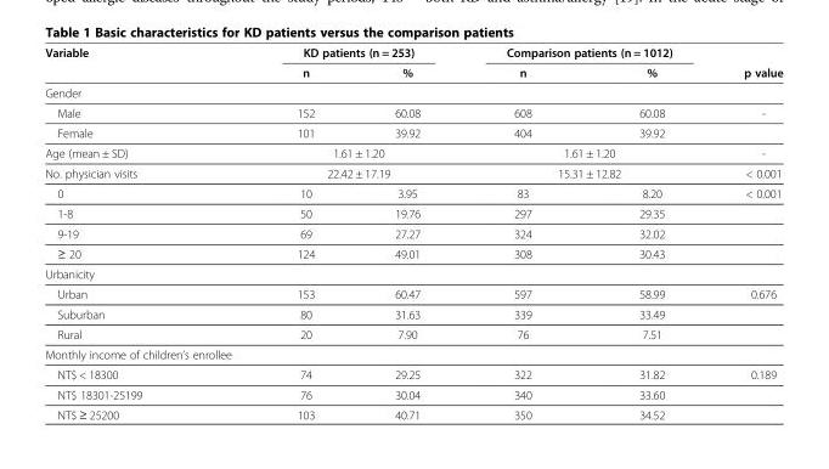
<table><thead><tr><td rowspan="2">Variable</td><td colspan="2">KD patients (n = 253)</td><td colspan="2">Comparison patients (n = 1012)</td><td rowspan="2">p value</td></tr><tr><td>n</td><td>%</td><td>n</td><td>%</td></tr></thead><tbody><tr><td colspan="6">Gender</td></tr><tr><td>Male</td><td>152</td><td>60.08</td><td>608</td><td>60.08</td><td>-</td></tr><tr><td>Female</td><td>101</td><td>39.92</td><td>404</td><td>39.92</td><td></td></tr><tr><td>Age (mean ± SD)</td><td colspan="2">1.61 ± 1.20</td><td colspan="2">1.61 ± 1.20</td><td>-</td></tr><tr><td>No. physician visits</td><td colspan="2">22.42 ± 17.19</td><td colspan="2">15.31 ± 12.82</td><td>&lt; 0.001</td></tr><tr><td>0</td><td>10</td><td>3.95</td><td>83</td><td>8.20</td><td>&lt; 0.001</td></tr><tr><td>1-8</td><td>50</td><td>19.76</td><td>297</td><td>29.35</td><td></td></tr><tr><td>9-19</td><td>69</td><td>27.27</td><td>324</td><td>32.02</td><td></td></tr><tr><td>≥ 20</td><td>124</td><td>49.01</td><td>308</td><td>30.43</td><td></td></tr><tr><td colspan="6">Urbanicity</td></tr><tr><td>Urban</td><td>153</td><td>60.47</td><td>597</td><td>58.99</td><td>0.676</td></tr><tr><td>Suburban</td><td>80</td><td>31.63</td><td>339</td><td>33.49</td><td></td></tr><tr><td>Rural</td><td>20</td><td>7.90</td><td>76</td><td>7.51</td><td></td></tr><tr><td colspan="6">Monthly income of children’s enrollee</td></tr><tr><td>NT$ &lt; 18300</td><td>74</td><td>29.25</td><td>322</td><td>31.82</td><td>0.189</td></tr><tr><td>NT$ 18301-25199</td><td>76</td><td>30.04</td><td>340</td><td>33.60</td><td></td></tr><tr><td>NT$ ≥ 25200</td><td>103</td><td>40.71</td><td>350</td><td>34.52</td><td></td></tr></tbody></table>